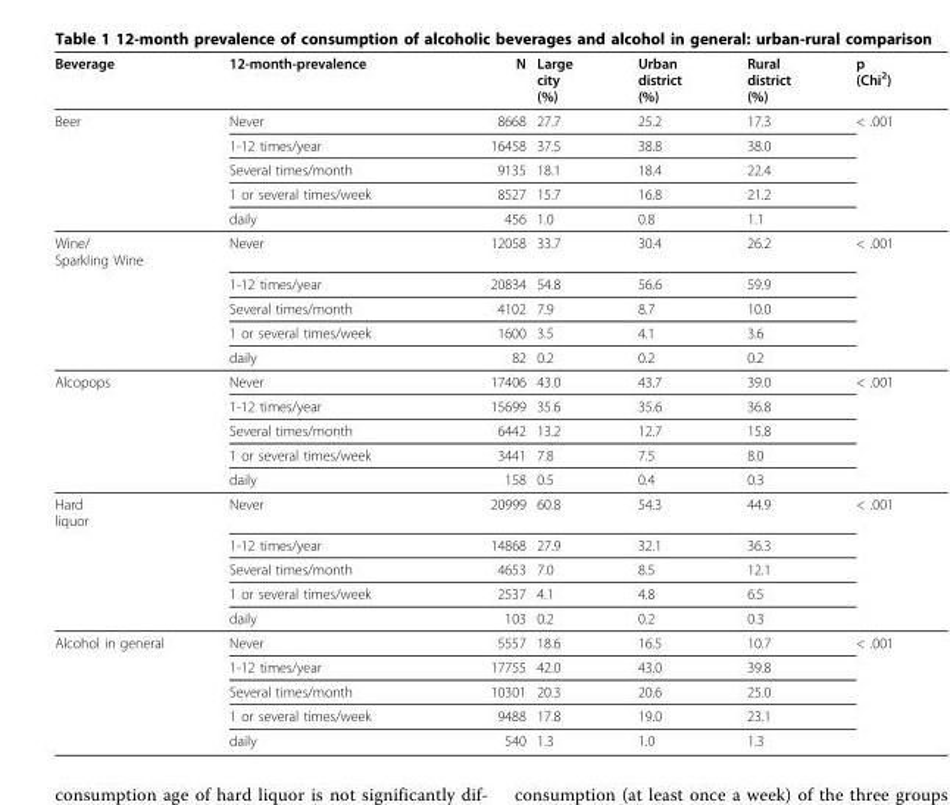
<table><thead><tr><td>Beverage</td><td>12-month-prevalence</td><td>N</td><td>Large city (%)</td><td>Urban district (%)</td><td>Rural district (%)</td><td>p (Chi<sup>2</sup>)</td></tr></thead><tbody><tr><td rowspan="5">Beer</td><td>Never</td><td>8668</td><td>27.7</td><td>25.2</td><td>17.3</td><td>&lt; .001</td></tr><tr><td>1-12 times/year</td><td>16458</td><td>37.5</td><td>38.8</td><td>38.0</td><td></td></tr><tr><td>Several times/month</td><td>9135</td><td>18.1</td><td>18.4</td><td>22.4</td><td></td></tr><tr><td>1 or several times/week</td><td>8527</td><td>15.7</td><td>16.8</td><td>21.2</td><td></td></tr><tr><td>daily</td><td>456</td><td>1.0</td><td>0.8</td><td>1.1</td><td></td></tr><tr><td rowspan="5">Wine/ Sparkling Wine</td><td>Never</td><td>12058</td><td>33.7</td><td>30.4</td><td>26.2</td><td>&lt; .001</td></tr><tr><td>1-12 times/year</td><td>20834</td><td>54.8</td><td>56.6</td><td>59.9</td><td></td></tr><tr><td>Several times/month</td><td>4102</td><td>7.9</td><td>8.7</td><td>10.0</td><td></td></tr><tr><td>1 or several times/week</td><td>1600</td><td>3.5</td><td>4.1</td><td>3.6</td><td></td></tr><tr><td>daily</td><td>82</td><td>0.2</td><td>0.2</td><td>0.2</td><td></td></tr><tr><td rowspan="5">Alcopops</td><td>Never</td><td>17406</td><td>43.0</td><td>43.7</td><td>39.0</td><td>&lt; .001</td></tr><tr><td>1-12 times/year</td><td>15699</td><td>35.6</td><td>35.6</td><td>36.8</td><td></td></tr><tr><td>Several times/month</td><td>6442</td><td>13.2</td><td>12.7</td><td>15.8</td><td></td></tr><tr><td>1 or several times/week</td><td>3441</td><td>7.8</td><td>7.5</td><td>8.0</td><td></td></tr><tr><td>daily</td><td>158</td><td>0.5</td><td>0.4</td><td>0.3</td><td></td></tr><tr><td rowspan="5">Hard liquor</td><td>Never</td><td>20999</td><td>60.8</td><td>54.3</td><td>44.9</td><td>&lt; .001</td></tr><tr><td>1-12 times/year</td><td>14868</td><td>27.9</td><td>32.1</td><td>36.3</td><td></td></tr><tr><td>Several times/month</td><td>4653</td><td>7.0</td><td>8.5</td><td>12.1</td><td></td></tr><tr><td>1 or several times/week</td><td>2537</td><td>4.1</td><td>4.8</td><td>6.5</td><td></td></tr><tr><td>daily</td><td>103</td><td>0.2</td><td>0.2</td><td>0.3</td><td></td></tr><tr><td rowspan="5">Alcohol in general</td><td>Never</td><td>5557</td><td>18.6</td><td>16.5</td><td>10.7</td><td>&lt; .001</td></tr><tr><td>1-12 times/year</td><td>17755</td><td>42.0</td><td>43.0</td><td>39.8</td><td></td></tr><tr><td>Several times/month</td><td>10301</td><td>20.3</td><td>20.6</td><td>25.0</td><td></td></tr><tr><td>1 or several times/week</td><td>9488</td><td>17.8</td><td>19.0</td><td>23.1</td><td></td></tr><tr><td>daily</td><td>540</td><td>1.3</td><td>1.0</td><td>1.3</td><td></td></tr></tbody></table>